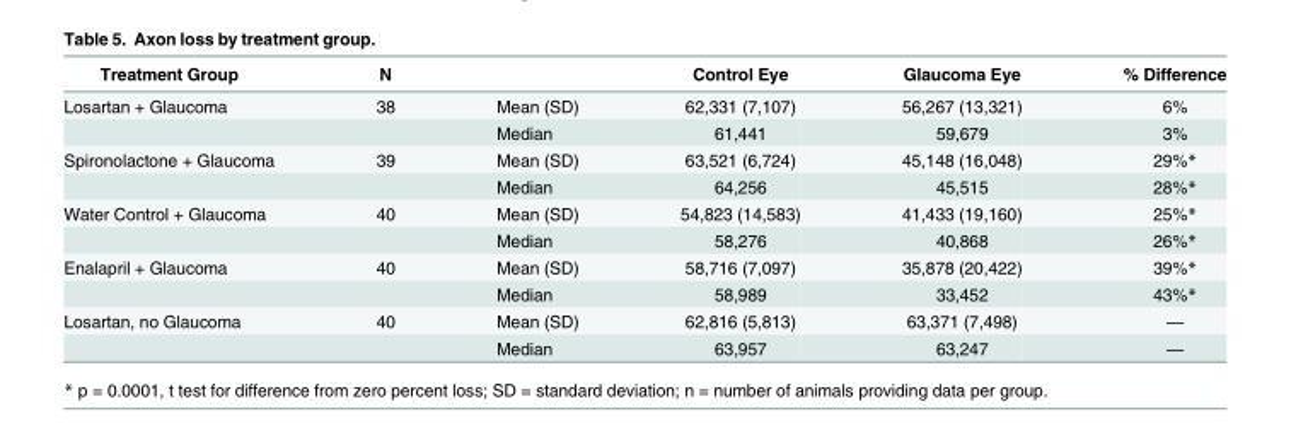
<table><thead><tr><td>Treatment Group</td><td>N</td><td></td><td>Control Eye</td><td>Glaucoma Eye</td><td>% Difference</td></tr></thead><tbody><tr><td rowspan="2">Losartan + Glaucoma</td><td>38</td><td>Mean (SD)</td><td>62,331 (7,107)</td><td>56,267 (13,321)</td><td>6%</td></tr><tr><td></td><td>Median</td><td>61,441</td><td>59,679</td><td>3%</td></tr><tr><td rowspan="2">Spironolactone + Glaucoma</td><td>39</td><td>Mean (SD)</td><td>63,521 (6,724)</td><td>45,148 (16,048)</td><td>29%*</td></tr><tr><td></td><td>Median</td><td>64,256</td><td>45,515</td><td>28%*</td></tr><tr><td rowspan="2">Water Control + Glaucoma</td><td>40</td><td>Mean (SD)</td><td>54,823 (14,583)</td><td>41,433 (19,160)</td><td>25%*</td></tr><tr><td></td><td>Median</td><td>58,276</td><td>40,868</td><td>26%*</td></tr><tr><td rowspan="2">Enalapril + Glaucoma</td><td>40</td><td>Mean (SD)</td><td>58,716 (7,097)</td><td>35,878 (20,422)</td><td>39%*</td></tr><tr><td></td><td>Median</td><td>58,989</td><td>33,452</td><td>43%*</td></tr><tr><td rowspan="2">Losartan, no Glaucoma</td><td>40</td><td>Mean (SD)</td><td>62,816 (5,813)</td><td>63,371 (7,498)</td><td>—</td></tr><tr><td></td><td>Median</td><td>63,957</td><td>63,247</td><td>—</td></tr></tbody></table>